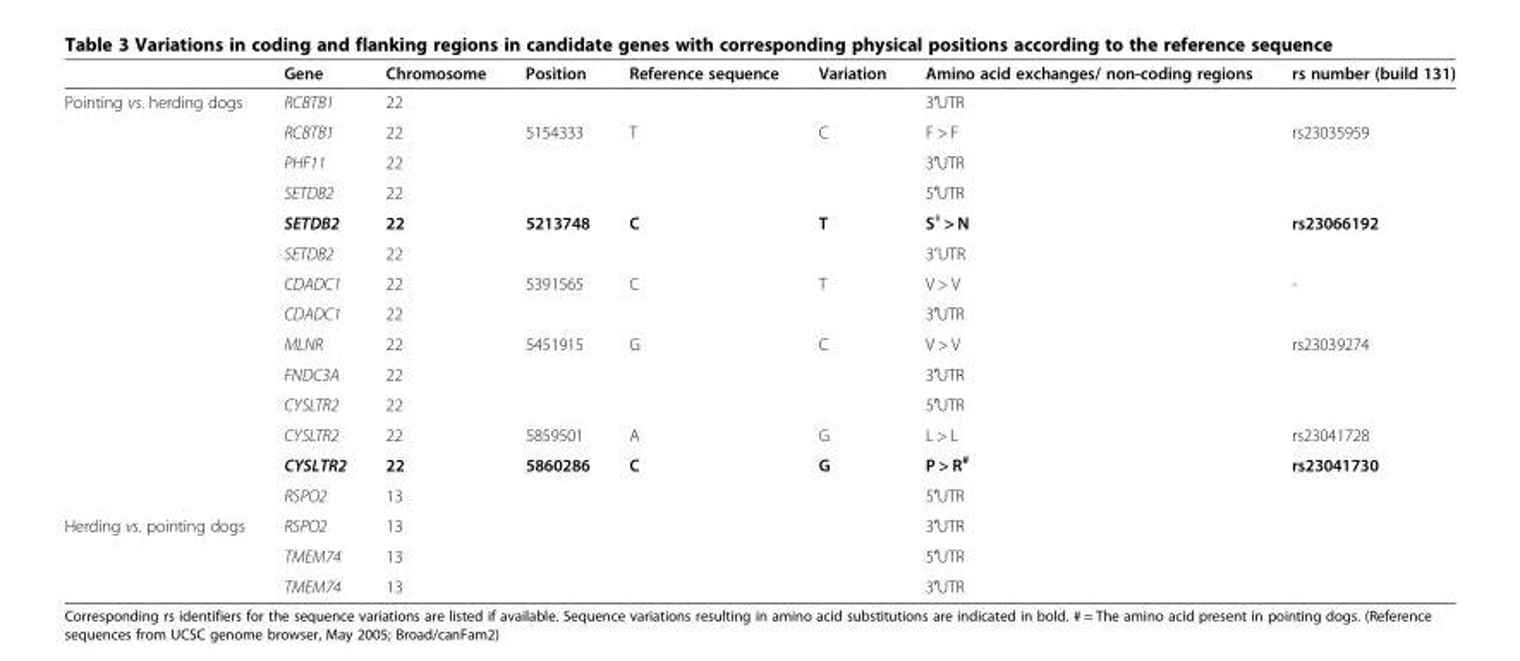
<table><thead><tr><td></td><td>Gene</td><td>Chromosome</td><td>Position</td><td>Reference sequence</td><td>Variation</td><td>Amino acid exchanges/ non-coding regions</td><td>rs number (build 131)</td></tr></thead><tbody><tr><td rowspan="14">Pointing vs. herding dogs</td><td>RCBTB1</td><td>22</td><td></td><td></td><td></td><td>3′UTR</td><td></td></tr><tr><td>RCBTB1</td><td>22</td><td>5154333</td><td>T</td><td>C</td><td>F &gt; F</td><td>rs23035959</td></tr><tr><td>PHF11</td><td>22</td><td></td><td></td><td></td><td>3′UTR</td><td></td></tr><tr><td>SETDB2</td><td>22</td><td></td><td></td><td></td><td>5′UTR</td><td></td></tr><tr><td>SETDB2</td><td>22</td><td>5213748</td><td>C</td><td>T</td><td>S<sup>#</sup> &gt; N</td><td>rs23066192</td></tr><tr><td>SETDB2</td><td>22</td><td></td><td></td><td></td><td>3′UTR</td><td></td></tr><tr><td>CDADC1</td><td>22</td><td>5391565</td><td>C</td><td>T</td><td>V &gt; V</td><td>-</td></tr><tr><td>CDADC1</td><td>22</td><td></td><td></td><td></td><td>3′UTR</td><td></td></tr><tr><td>MLNR</td><td>22</td><td>5451915</td><td>G</td><td>C</td><td>V &gt; V</td><td>rs23039274</td></tr><tr><td>FNDC3A</td><td>22</td><td></td><td></td><td></td><td>3′UTR</td><td></td></tr><tr><td>CYSLTR2</td><td>22</td><td></td><td></td><td></td><td>5′UTR</td><td></td></tr><tr><td>CYSLTR2</td><td>22</td><td>5859501</td><td>A</td><td>G</td><td>L &gt; L</td><td>rs23041728</td></tr><tr><td>CYSLTR2</td><td>22</td><td>5860286</td><td>C</td><td>G</td><td>P &gt; R<sup>#</sup></td><td>rs23041730</td></tr><tr><td>RSPO2</td><td>13</td><td></td><td></td><td></td><td>5′UTR</td><td></td></tr><tr><td rowspan="3">Herding vs. pointing dogs</td><td>RSPO2</td><td>13</td><td></td><td></td><td></td><td>3′UTR</td><td></td></tr><tr><td>TMEM74</td><td>13</td><td></td><td></td><td></td><td>5′UTR</td><td></td></tr><tr><td>TMEM74</td><td>13</td><td></td><td></td><td></td><td>3′UTR</td><td></td></tr></tbody></table>